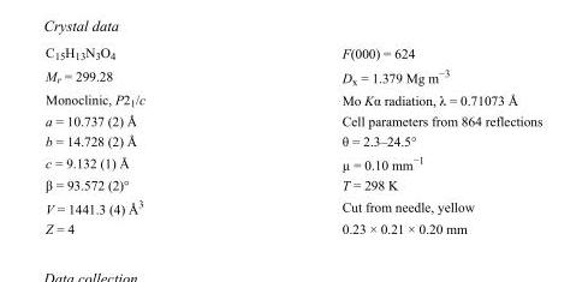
<table><tbody><tr><td>C<sub>15</sub>H<sub>13</sub>N<sub>3</sub>O<sub>4</sub></td><td>F(000) = 624</td></tr><tr><td>M<sub>r</sub> = 299.28</td><td>D<sub>x</sub> = 1.379 Mg m<sup>−3</sup></td></tr><tr><td>Monoclinic, P2<sub>1</sub>/c</td><td>Mo Kα radiation, λ = 0.71073 Å</td></tr><tr><td>a = 10.737 (2) Å</td><td>Cell parameters from 864 reflections</td></tr><tr><td>b = 14.728 (2) Å</td><td>θ = 2.3–24.5°</td></tr><tr><td>c = 9.132 (1) Å</td><td>µ = 0.10 mm<sup>−1</sup></td></tr><tr><td>β = 93.572 (2)°</td><td>T = 298 K</td></tr><tr><td>V = 1441.3 (4) Å<sup>3</sup></td><td>Cut from needle, yellow</td></tr><tr><td>Z = 4</td><td>0.23 × 0.21 × 0.20 mm</td></tr></tbody></table>